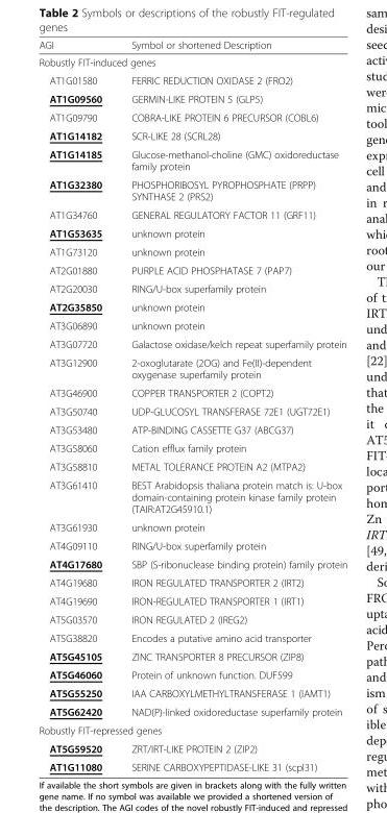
<table><thead><tr><td>AGI</td><td>Symbol or shortened Description</td></tr></thead><tbody><tr><td colspan="2">Robustly FIT-induced genes</td></tr><tr><td>AT1G01580</td><td>FERRIC REDUCTION OXIDASE 2 (FRO2)</td></tr><tr><td>AT1G09560</td><td>GERMIN-LIKE PROTEIN 5 (GLP5)</td></tr><tr><td>AT1G09790</td><td>COBRA-LIKE PROTEIN 6 PRECURSOR (COBL6)</td></tr><tr><td>AT1G14182</td><td>SCR-LIKE 28 (SCRL28)</td></tr><tr><td>AT1G14185</td><td>Glucose-methanol-choline (GMC) oxidoreductase family protein</td></tr><tr><td>AT1G32380</td><td>PHOSPHORIBOSYL PYROPHOSPHATE (PRPP) SYNTHASE 2 (PRS2)</td></tr><tr><td>AT1G34760</td><td>GENERAL REGULATORY FACTOR 11 (GRF11)</td></tr><tr><td>AT1G53635</td><td>unknown protein</td></tr><tr><td>AT1G73120</td><td>unknown protein</td></tr><tr><td>AT2G01880</td><td>PURPLE ACID PHOSPHATASE 7 (PAP7)</td></tr><tr><td>AT2G20030</td><td>RING/U-box superfamily protein</td></tr><tr><td>AT2G35850</td><td>unknown protein</td></tr><tr><td>AT3G06890</td><td>unknown protein</td></tr><tr><td>AT3G07720</td><td>Galactose oxidase/kelch repeat superfamily protein</td></tr><tr><td>AT3G12900</td><td>2-oxoglutarate (2OG) and Fe(II)-dependent oxygenase superfamily protein</td></tr><tr><td>AT3G46900</td><td>COPPER TRANSPORTER 2 (COPT2)</td></tr><tr><td>AT3G50740</td><td>UDP-GLUCOSYL TRANSFERASE 72E1 (UGT72E1)</td></tr><tr><td>AT3G53480</td><td>ATP-BINDING CASSETTE G37 (ABCG37)</td></tr><tr><td>AT3G58060</td><td>Cation efflux family protein</td></tr><tr><td>AT3G58810</td><td>METAL TOLERANCE PROTEIN A2 (MTPA2)</td></tr><tr><td>AT3G61410</td><td>BEST Arabidopsis thaliana protein match is: U-box domain-containing protein kinase family protein (TAIR:AT2G45910.1)</td></tr><tr><td>AT3G61930</td><td>unknown protein</td></tr><tr><td>AT4G09110</td><td>RING/U-box superfamily protein</td></tr><tr><td>AT4G17680</td><td>SBP (S-ribonuclease binding protein) family protein</td></tr><tr><td>AT4G19680</td><td>IRON REGULATED TRANSPORTER 2 (IRT2)</td></tr><tr><td>AT4G19690</td><td>IRON-REGULATED TRANSPORTER 1 (IRT1)</td></tr><tr><td>AT5G03570</td><td>IRON REGULATED 2 (IREG2)</td></tr><tr><td>AT5G38820</td><td>Encodes a putative amino acid transporter</td></tr><tr><td>AT5G45105</td><td>ZINC TRANSPORTER 8 PRECURSOR (ZIP8)</td></tr><tr><td>AT5G46060</td><td>Protein of unknown function. DUF599</td></tr><tr><td>AT5G55250</td><td>IAA CARBOXYLMETHYLTRANSFERASE 1 (IAMT1)</td></tr><tr><td>AT5G62420</td><td>NAD(P)-linked oxidoreductase superfamily protein</td></tr><tr><td colspan="2">Robustly FIT-repressed genes</td></tr><tr><td>AT5G59520</td><td>ZRT/IRT-LIKE PROTEIN 2 (ZIP2)</td></tr><tr><td>AT1G11080</td><td>SERINE CARBOXYPEPTIDASE-LIKE 31 (scpl31)</td></tr></tbody></table>